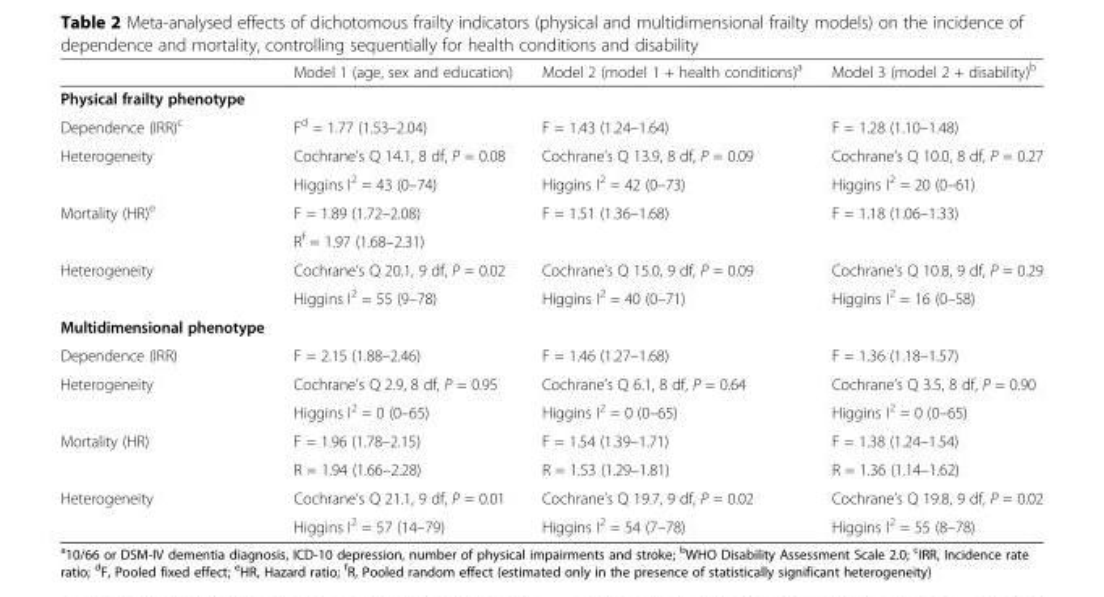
<table><thead><tr><td></td><td>Model 1 (age, sex and education)</td><td>Model 2 (model 1 + health conditions)<sup>a</sup></td><td>Model 3 (model 2 + disability)<sup>b</sup></td></tr></thead><tbody><tr><td colspan="4">Physical frailty phenotype</td></tr><tr><td>Dependence (IRR)<sup>c</sup></td><td>F<sup>d</sup> = 1.77 (1.53–2.04)</td><td>F = 1.43 (1.24–1.64)</td><td>F = 1.28 (1.10–1.48)</td></tr><tr><td rowspan="2">Heterogeneity</td><td>Cochrane’s Q 14.1, 8 df, P = 0.08</td><td>Cochrane’s Q 13.9, 8 df, P = 0.09</td><td>Cochrane’s Q 10.0, 8 df, P = 0.27</td></tr><tr><td>Higgins I<sup>2</sup> = 43 (0–74)</td><td>Higgins I<sup>2</sup> = 42 (0–73)</td><td>Higgins I<sup>2</sup> = 20 (0–61)</td></tr><tr><td rowspan="2">Mortality (HR)<sup>e</sup></td><td>F = 1.89 (1.72–2.08)</td><td rowspan="2">F = 1.51 (1.36–1.68)</td><td rowspan="2">F = 1.18 (1.06–1.33)</td></tr><tr><td>R<sup>f</sup> = 1.97 (1.68–2.31)</td></tr><tr><td rowspan="2">Heterogeneity</td><td>Cochrane’s Q 20.1, 9 df, P = 0.02</td><td>Cochrane’s Q 15.0, 9 df, P = 0.09</td><td>Cochrane’s Q 10.8, 9 df, P = 0.29</td></tr><tr><td>Higgins I<sup>2</sup> = 55 (9–78)</td><td>Higgins I<sup>2</sup> = 40 (0–71)</td><td>Higgins I<sup>2</sup> = 16 (0–58)</td></tr><tr><td colspan="4">Multidimensional phenotype</td></tr><tr><td>Dependence (IRR)</td><td>F = 2.15 (1.88–2.46)</td><td>F = 1.46 (1.27–1.68)</td><td>F = 1.36 (1.18–1.57)</td></tr><tr><td rowspan="2">Heterogeneity</td><td>Cochrane’s Q 2.9, 8 df, P = 0.95</td><td>Cochrane’s Q 6.1, 8 df, P = 0.64</td><td>Cochrane’s Q 3.5, 8 df, P = 0.90</td></tr><tr><td>Higgins I<sup>2</sup> = 0 (0–65)</td><td>Higgins I<sup>2</sup> = 0 (0–65)</td><td>Higgins I<sup>2</sup> = 0 (0–65)</td></tr><tr><td rowspan="2">Mortality (HR)</td><td>F = 1.96 (1.78–2.15)</td><td>F = 1.54 (1.39–1.71)</td><td>F = 1.38 (1.24–1.54)</td></tr><tr><td>R = 1.94 (1.66–2.28)</td><td>R = 1.53 (1.29–1.81)</td><td>R = 1.36 (1.14–1.62)</td></tr><tr><td rowspan="2">Heterogeneity</td><td>Cochrane’s Q 21.1, 9 df, P = 0.01</td><td>Cochrane’s Q 19.7, 9 df, P = 0.02</td><td>Cochrane’s Q 19.8, 9 df, P = 0.02</td></tr><tr><td>Higgins I<sup>2</sup> = 57 (14–79)</td><td>Higgins I<sup>2</sup> = 54 (7–78)</td><td>Higgins I<sup>2</sup> = 55 (8–78)</td></tr></tbody></table>